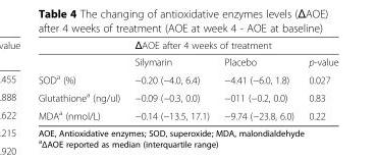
<table><thead><tr><td rowspan="2"></td><td colspan="3">ΔAOE after 4 weeks of treatment</td></tr><tr><td>Silymarin</td><td>Placebo</td><td>p-value</td></tr></thead><tbody><tr><td>SOD<sup>a</sup> (%)</td><td>−0.20 (−4.0, 6.4)</td><td>−4.41 (−6.0, 1.8)</td><td>0.027</td></tr><tr><td>Glutathione<sup>a</sup> (ng/ul)</td><td>−0.09 (−0.3, 0.0)</td><td>−011 (−0.2, 0.0)</td><td>0.83</td></tr><tr><td>MDA<sup>a</sup> (nmol/L)</td><td>−0.14 (−13.5, 17.1)</td><td>−9.74 (−23.8, 6.0)</td><td>0.22</td></tr></tbody></table>